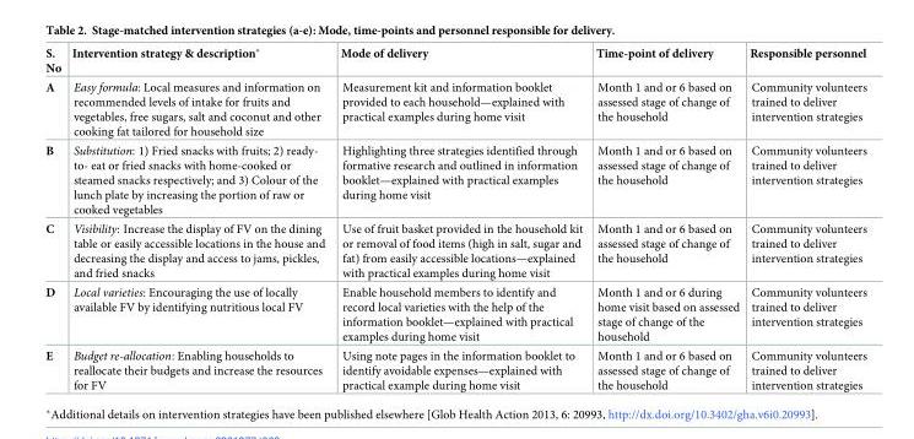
<table><thead><tr><td>S. No</td><td>Intervention strategy &amp; description*</td><td>Mode of delivery</td><td>Time-point of delivery</td><td>Responsible personnel</td></tr></thead><tbody><tr><td>A</td><td>Easy formula: Local measures and information on recommended levels of intake for fruits and vegetables, free sugars, salt and coconut and other cooking fat tailored for household size</td><td>Measurement kit and information booklet provided to each household—explained with practical examples during home visit</td><td>Month 1 and or 6 based on assessed stage of change of the household</td><td>Community volunteers trained to deliver intervention strategies</td></tr><tr><td>B</td><td>Substitution: 1) Fried snacks with fruits; 2) ready- to- eat or fried snacks with home-cooked or steamed snacks respectively; and 3) Colour of the lunch plate by increasing the portion of raw or cooked vegetables</td><td>Highlighting three strategies identified through formative research and outlined in information booklet—explained with practical examples during home visit</td><td>Month 1 and or 6 based on assessed stage of change of the household</td><td>Community volunteers trained to deliver intervention strategies</td></tr><tr><td>C</td><td>Visibility: Increase the display of FV on the dining table or easily accessible locations in the house and decreasing the display and access to jams, pickles, and fried snacks</td><td>Use of fruit basket provided in the household kit or removal of food items (high in salt, sugar and fat) from easily accessible locations—explained with practical examples during home visit</td><td>Month 1 and or 6 based on assessed stage of change of the household</td><td>Community volunteers trained to deliver intervention strategies</td></tr><tr><td>D</td><td>Local varieties: Encouraging the use of locally available FV by identifying nutritious local FV</td><td>Enable household members to identify and record local varieties with the help of the information booklet—explained with practical examples during home visit</td><td>Month 1 and or 6 during home visit based on assessed stage of change of the household</td><td>Community volunteers trained to deliver intervention strategies</td></tr><tr><td>E</td><td>Budget re-allocation: Enabling households to reallocate their budgets and increase the resources for FV</td><td>Using note pages in the information booklet to identify avoidable expenses—explained with practical example during home visit</td><td>Month 1 and or 6 based on assessed stage of change of the household</td><td>Community volunteers trained to deliver intervention strategies</td></tr></tbody></table>